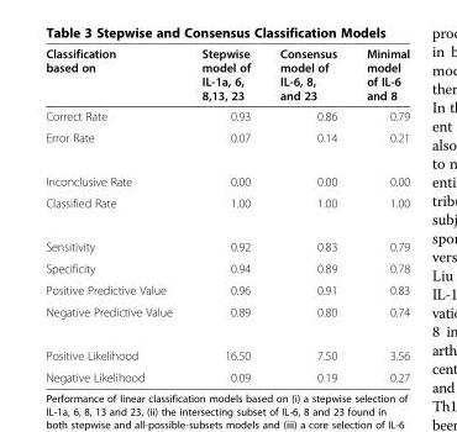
<table><thead><tr><td>Classification based on</td><td>Stepwise model of IL-1a, 6, 8,13, 23</td><td>Consensus model of IL-6, 8, and 23</td><td>Minimal model of IL-6 and 8</td></tr></thead><tbody><tr><td>Correct Rate</td><td>0.93</td><td>0.86</td><td>0.79</td></tr><tr><td>Error Rate</td><td>0.07</td><td>0.14</td><td>0.21</td></tr><tr><td>Inconclusive Rate</td><td>0.00</td><td>0.00</td><td>0.00</td></tr><tr><td>Classified Rate</td><td>1.00</td><td>1.00</td><td>1.00</td></tr><tr><td>Sensitivity</td><td>0.92</td><td>0.83</td><td>0.79</td></tr><tr><td>Specificity</td><td>0.94</td><td>0.89</td><td>0.78</td></tr><tr><td>Positive Predictive Value</td><td>0.96</td><td>0.91</td><td>0.83</td></tr><tr><td>Negative Predictive Value</td><td>0.89</td><td>0.80</td><td>0.74</td></tr><tr><td>Positive Likelihood</td><td>16.50</td><td>7.50</td><td>3.56</td></tr><tr><td>Negative Likelihood</td><td>0.09</td><td>0.19</td><td>0.27</td></tr></tbody></table>